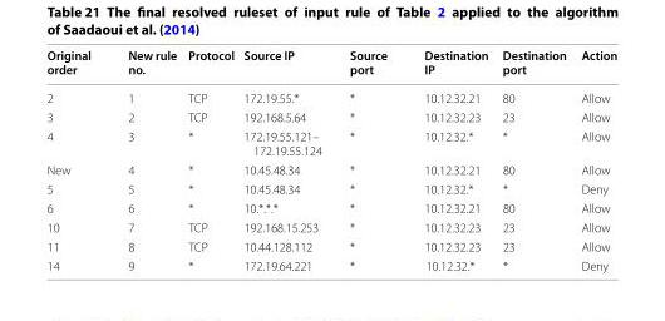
<table><thead><tr><td>Original order</td><td>New rule no.</td><td>Protocol</td><td>Source IP</td><td>Source port</td><td>Destination IP</td><td>Destination port</td><td>Action</td></tr></thead><tbody><tr><td>2</td><td>1</td><td>TCP</td><td>172.19.55.*</td><td>*</td><td>10.12.32.21</td><td>80</td><td>Allow</td></tr><tr><td>3</td><td>2</td><td>TCP</td><td>192.168.5.64</td><td>*</td><td>10.12.32.23</td><td>23</td><td>Allow</td></tr><tr><td>4</td><td>3</td><td>*</td><td>172.19.55.121– 172.19.55.124</td><td>*</td><td>10.12.32.*</td><td>*</td><td>Allow</td></tr><tr><td>New</td><td>4</td><td>*</td><td>10.45.48.34</td><td>*</td><td>10.12.32.21</td><td>80</td><td>Allow</td></tr><tr><td>5</td><td>5</td><td>*</td><td>10.45.48.34</td><td>*</td><td>10.12.32.*</td><td>*</td><td>Deny</td></tr><tr><td>6</td><td>6</td><td>*</td><td>10.*.*.*</td><td>*</td><td>10.12.32.21</td><td>80</td><td>Allow</td></tr><tr><td>10</td><td>7</td><td>TCP</td><td>192.168.15.253</td><td>*</td><td>10.12.32.23</td><td>23</td><td>Allow</td></tr><tr><td>11</td><td>8</td><td>TCP</td><td>10.44.128.112</td><td>*</td><td>10.12.32.23</td><td>23</td><td>Allow</td></tr><tr><td>14</td><td>9</td><td>*</td><td>172.19.64.221</td><td>*</td><td>10.12.32.*</td><td>*</td><td>Deny</td></tr></tbody></table>